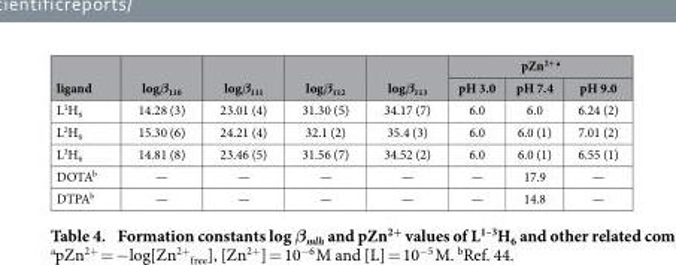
<table><thead><tr><td rowspan="2">ligand</td><td rowspan="2">logβ<sub>110</sub></td><td rowspan="2">logβ<sub>111</sub></td><td rowspan="2">logβ<sub>112</sub></td><td rowspan="2">logβ<sub>113</sub></td><td colspan="3">pZn<sup>2+</sup> a</td></tr><tr><td>pH 3.0</td><td>pH 7.4</td><td>pH 9.0</td></tr></thead><tbody><tr><td>L<sup>1</sup>H<sub>6</sub></td><td>14.28 (3)</td><td>23.01 (4)</td><td>31.30 (5)</td><td>34.17 (7)</td><td>6.0</td><td>6.0</td><td>6.24 (2)</td></tr><tr><td>L<sup>2</sup>H<sub>6</sub></td><td>15.30 (6)</td><td>24.21 (4)</td><td>32.1 (2)</td><td>35.4 (3)</td><td>6.0</td><td>6.0 (1)</td><td>7.01 (2)</td></tr><tr><td>L<sup>3</sup>H<sub>6</sub></td><td>14.81 (8)</td><td>23.46 (5)</td><td>31.56 (7)</td><td>34.52 (2)</td><td>6.0</td><td>6.0 (1)</td><td>6.55 (1)</td></tr><tr><td>DOTA<sup>b</sup></td><td>—</td><td>—</td><td>—</td><td>—</td><td>—</td><td>17.9</td><td>—</td></tr><tr><td>DTPA<sup>b</sup></td><td>—</td><td>—</td><td>—</td><td>—</td><td>—</td><td>14.8</td><td>—</td></tr></tbody></table>